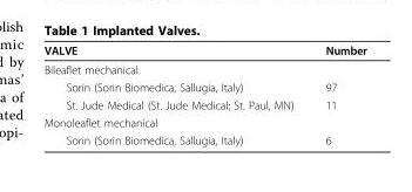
<table><thead><tr><td>VALVE</td><td>Number</td></tr></thead><tbody><tr><td colspan="2">Bileaflet mechanical</td></tr><tr><td>Sorin (Sorin Biomedica, Sallugia, Italy)</td><td>97</td></tr><tr><td>St. Jude Medical (St. Jude Medical; St. Paul, MN)</td><td>11</td></tr><tr><td colspan="2">Monoleaflet mechanical</td></tr><tr><td>Sorin (Sorin Biomedica, Sallugia, Italy)</td><td>6</td></tr></tbody></table>